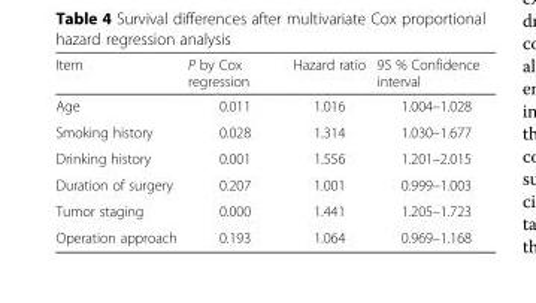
<table><thead><tr><td>Item</td><td>P by Cox regression</td><td>Hazard ratio</td><td>95 % Confidence interval</td></tr></thead><tbody><tr><td>Age</td><td>0.011</td><td>1.016</td><td>1.004–1.028</td></tr><tr><td>Smoking history</td><td>0.028</td><td>1.314</td><td>1.030–1.677</td></tr><tr><td>Drinking history</td><td>0.001</td><td>1.556</td><td>1.201–2.015</td></tr><tr><td>Duration of surgery</td><td>0.207</td><td>1.001</td><td>0.999–1.003</td></tr><tr><td>Tumor staging</td><td>0.000</td><td>1.441</td><td>1.205–1.723</td></tr><tr><td>Operation approach</td><td>0.193</td><td>1.064</td><td>0.969–1.168</td></tr></tbody></table>